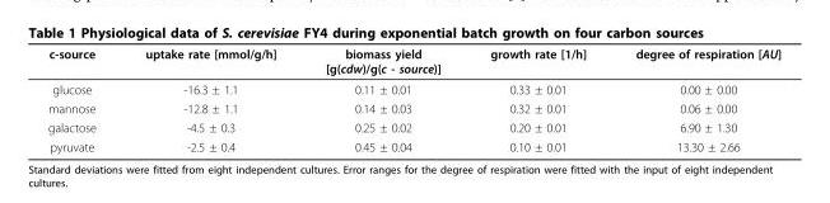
<table><thead><tr><td>c-source</td><td>uptake rate [mmol/g/h]</td><td>biomass yield [g(cdw)/g(c - source)]</td><td>growth rate [1/h]</td><td>degree of respiration [AU]</td></tr></thead><tbody><tr><td>glucose</td><td>-16.3 ± 1.1</td><td>0.11 ± 0.01</td><td>0.33 ± 0.01</td><td>0.00 ± 0.00</td></tr><tr><td>mannose</td><td>-12.8 ± 1.1</td><td>0.14 ± 0.03</td><td>0.32 ± 0.01</td><td>0.06 ± 0.00</td></tr><tr><td>galactose</td><td>-4.5 ± 0.3</td><td>0.25 ± 0.02</td><td>0.20 ± 0.01</td><td>6.90 ± 1.30</td></tr><tr><td>pyruvate</td><td>-2.5 ± 0.4</td><td>0.45 ± 0.04</td><td>0.10 ± 0.01</td><td>13.30 ± 2.66</td></tr></tbody></table>